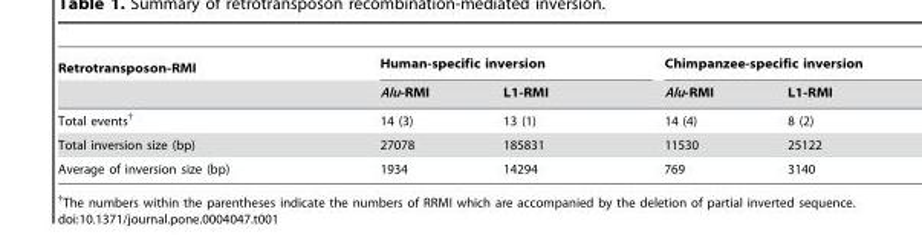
<table><thead><tr><td rowspan="2">Retrotransposon-RMI</td><td colspan="2">Human-specific inversion</td><td colspan="2">Chimpanzee-specific inversion</td></tr><tr><td>Alu-RMI</td><td>L1-RMI</td><td>Alu-RMI</td><td>L1-RMI</td></tr></thead><tbody><tr><td>Total events†</td><td>14 (3)</td><td>13 (1)</td><td>14 (4)</td><td>8 (2)</td></tr><tr><td>Total inversion size (bp)</td><td>27078</td><td>185831</td><td>11530</td><td>25122</td></tr><tr><td>Average of inversion size (bp)</td><td>1934</td><td>14294</td><td>769</td><td>3140</td></tr></tbody></table>